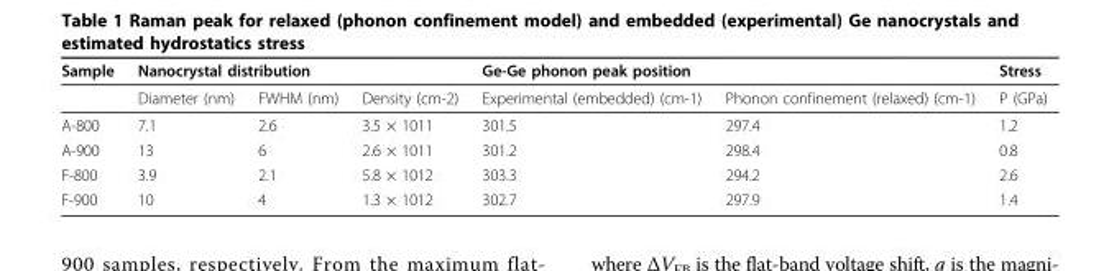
<table><thead><tr><td rowspan="2">Sample</td><td colspan="3">Nanocrystal distribution</td><td colspan="2">Ge-Ge phonon peak position</td><td rowspan="2">Stress P (GPa)</td></tr><tr><td>Diameter (nm)</td><td>FWHM (nm)</td><td>Density (cm-2)</td><td>Experimental (embedded) (cm-1)</td><td>Phonon confinement (relaxed) (cm-1)</td></tr></thead><tbody><tr><td>A-800</td><td>7.1</td><td>2.6</td><td>3.5 × 1011</td><td>301.5</td><td>297.4</td><td>1.2</td></tr><tr><td>A-900</td><td>13</td><td>6</td><td>2.6 × 1011</td><td>301.2</td><td>298.4</td><td>0.8</td></tr><tr><td>F-800</td><td>3.9</td><td>2.1</td><td>5.8 × 1012</td><td>303.3</td><td>294.2</td><td>2.6</td></tr><tr><td>F-900</td><td>10</td><td>4</td><td>1.3 × 1012</td><td>302.7</td><td>297.9</td><td>1.4</td></tr></tbody></table>